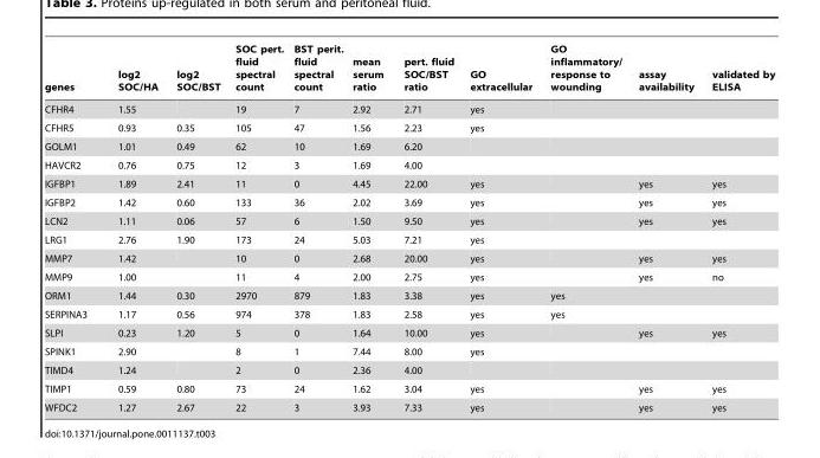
<table><thead><tr><td>genes</td><td>log2 SOC/HA</td><td>log2 SOC/BST</td><td>SOC pert. fluid spectral count</td><td>BST perit. fluid spectral count</td><td>mean serum ratio</td><td>pert. fluid SOC/BST ratio</td><td>GO extracellular</td><td>GO inflammatory/ response to wounding</td><td>assay availability</td><td>validated by ELISA</td></tr></thead><tbody><tr><td>CFHR4</td><td>1.55</td><td></td><td>19</td><td>7</td><td>2.92</td><td>2.71</td><td>yes</td><td></td><td></td><td></td></tr><tr><td>CFHR5</td><td>0.93</td><td>0.35</td><td>105</td><td>47</td><td>1.56</td><td>2.23</td><td>yes</td><td></td><td></td><td></td></tr><tr><td>GOLM1</td><td>1.01</td><td>0.49</td><td>62</td><td>10</td><td>1.69</td><td>6.20</td><td></td><td></td><td></td><td></td></tr><tr><td>HAVCR2</td><td>0.76</td><td>0.75</td><td>12</td><td>3</td><td>1.69</td><td>4.00</td><td></td><td></td><td></td><td></td></tr><tr><td>IGFBP1</td><td>1.89</td><td>2.41</td><td>11</td><td>0</td><td>4.45</td><td>22.00</td><td>yes</td><td></td><td>yes</td><td>yes</td></tr><tr><td>IGFBP2</td><td>1.42</td><td>0.60</td><td>133</td><td>36</td><td>2.02</td><td>3.69</td><td>yes</td><td></td><td>yes</td><td>yes</td></tr><tr><td>LCN2</td><td>1.11</td><td>0.06</td><td>57</td><td>6</td><td>1.50</td><td>9.50</td><td>yes</td><td></td><td>yes</td><td>yes</td></tr><tr><td>LRG1</td><td>2.76</td><td>1.90</td><td>173</td><td>24</td><td>5.03</td><td>7.21</td><td>yes</td><td></td><td></td><td></td></tr><tr><td>MMP7</td><td>1.42</td><td></td><td>10</td><td>0</td><td>2.68</td><td>20.00</td><td>yes</td><td></td><td>yes</td><td>yes</td></tr><tr><td>MMP9</td><td>1.00</td><td></td><td>11</td><td>4</td><td>2.00</td><td>2.75</td><td>yes</td><td></td><td>yes</td><td>no</td></tr><tr><td>ORM1</td><td>1.44</td><td>0.30</td><td>2970</td><td>879</td><td>1.83</td><td>3.38</td><td>yes</td><td>yes</td><td></td><td></td></tr><tr><td>SERPINA3</td><td>1.17</td><td>0.56</td><td>974</td><td>378</td><td>1.83</td><td>2.58</td><td>yes</td><td>yes</td><td></td><td></td></tr><tr><td>SLPI</td><td>0.23</td><td>1.20</td><td>5</td><td>0</td><td>1.64</td><td>10.00</td><td>yes</td><td></td><td>yes</td><td>yes</td></tr><tr><td>SPINK1</td><td>2.90</td><td></td><td>8</td><td>1</td><td>7.44</td><td>8.00</td><td>yes</td><td></td><td></td><td></td></tr><tr><td>TIMD4</td><td>1.24</td><td></td><td>2</td><td>0</td><td>2.36</td><td>4.00</td><td></td><td></td><td></td><td></td></tr><tr><td>TIMP1</td><td>0.59</td><td>0.80</td><td>73</td><td>24</td><td>1.62</td><td>3.04</td><td>yes</td><td></td><td>yes</td><td>yes</td></tr><tr><td>WFDC2</td><td>1.27</td><td>2.67</td><td>22</td><td>3</td><td>3.93</td><td>7.33</td><td>yes</td><td></td><td>yes</td><td>yes</td></tr></tbody></table>